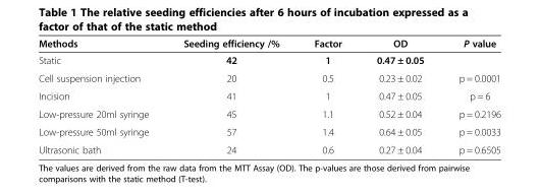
<table><thead><tr><td>Methods</td><td>Seeding efficiency /%</td><td>Factor</td><td>OD</td><td>P value</td></tr></thead><tbody><tr><td>Static</td><td>42</td><td>1</td><td>0.47 ± 0.05</td><td></td></tr><tr><td>Cell suspension injection</td><td>20</td><td>0.5</td><td>0.23 ± 0.02</td><td>p = 0.0001</td></tr><tr><td>Incision</td><td>41</td><td>1</td><td>0.47 ± 0.05</td><td>p = 6</td></tr><tr><td>Low-pressure 20ml syringe</td><td>45</td><td>1.1</td><td>0.52 ± 0.04</td><td>p = 0.2196</td></tr><tr><td>Low-pressure 50ml syringe</td><td>57</td><td>1.4</td><td>0.64 ± 0.05</td><td>p = 0.0033</td></tr><tr><td>Ultrasonic bath</td><td>24</td><td>0.6</td><td>0.27 ± 0.04</td><td>p = 0.6505</td></tr></tbody></table>